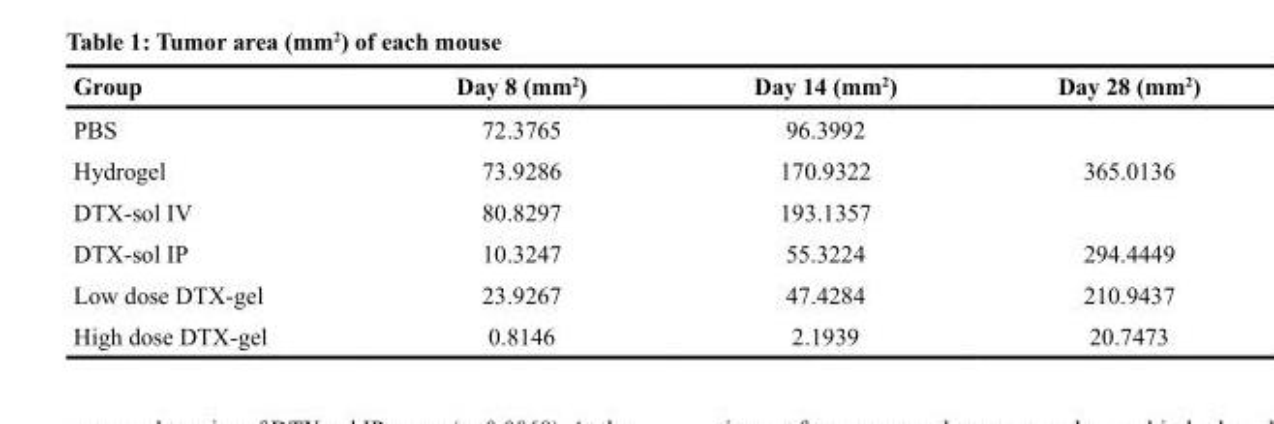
<table><thead><tr><td>Group</td><td>Day 8 (mm<sup>2</sup>)</td><td>Day 14 (mm<sup>2</sup>)</td><td>Day 28 (mm<sup>2</sup>)</td></tr></thead><tbody><tr><td>PBS</td><td>72.3765</td><td>96.3992</td><td></td></tr><tr><td>Hydrogel</td><td>73.9286</td><td>170.9322</td><td>365.0136</td></tr><tr><td>DTX-sol IV</td><td>80.8297</td><td>193.1357</td><td></td></tr><tr><td>DTX-sol IP</td><td>10.3247</td><td>55.3224</td><td>294.4449</td></tr><tr><td>Low dose DTX-gel</td><td>23.9267</td><td>47.4284</td><td>210.9437</td></tr><tr><td>High dose DTX-gel</td><td>0.8146</td><td>2.1939</td><td>20.7473</td></tr></tbody></table>